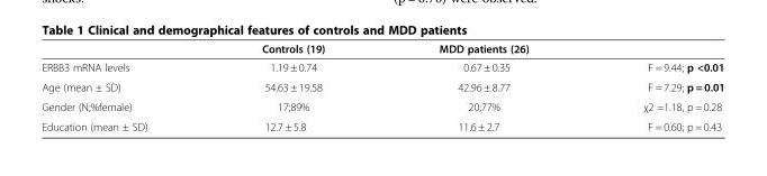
<table><thead><tr><td></td><td>Controls (19)</td><td>MDD patients (26)</td><td></td></tr></thead><tbody><tr><td>ERBB3 mRNA levels</td><td>1.19 ± 0.74</td><td>0.67 ± 0.35</td><td>F = 9.44; p &lt;0.01</td></tr><tr><td>Age (mean ± SD)</td><td>54.63 ± 19.58</td><td>42.96 ± 8.77</td><td>F = 7.29; p = 0.01</td></tr><tr><td>Gender (N;%female)</td><td>17;89%</td><td>20;77%</td><td>χ2 =1.18, p = 0.28</td></tr><tr><td>Education (mean ± SD)</td><td>12.7 ± 5.8</td><td>11.6 ± 2.7</td><td>F = 0.60; p = 0.43</td></tr></tbody></table>